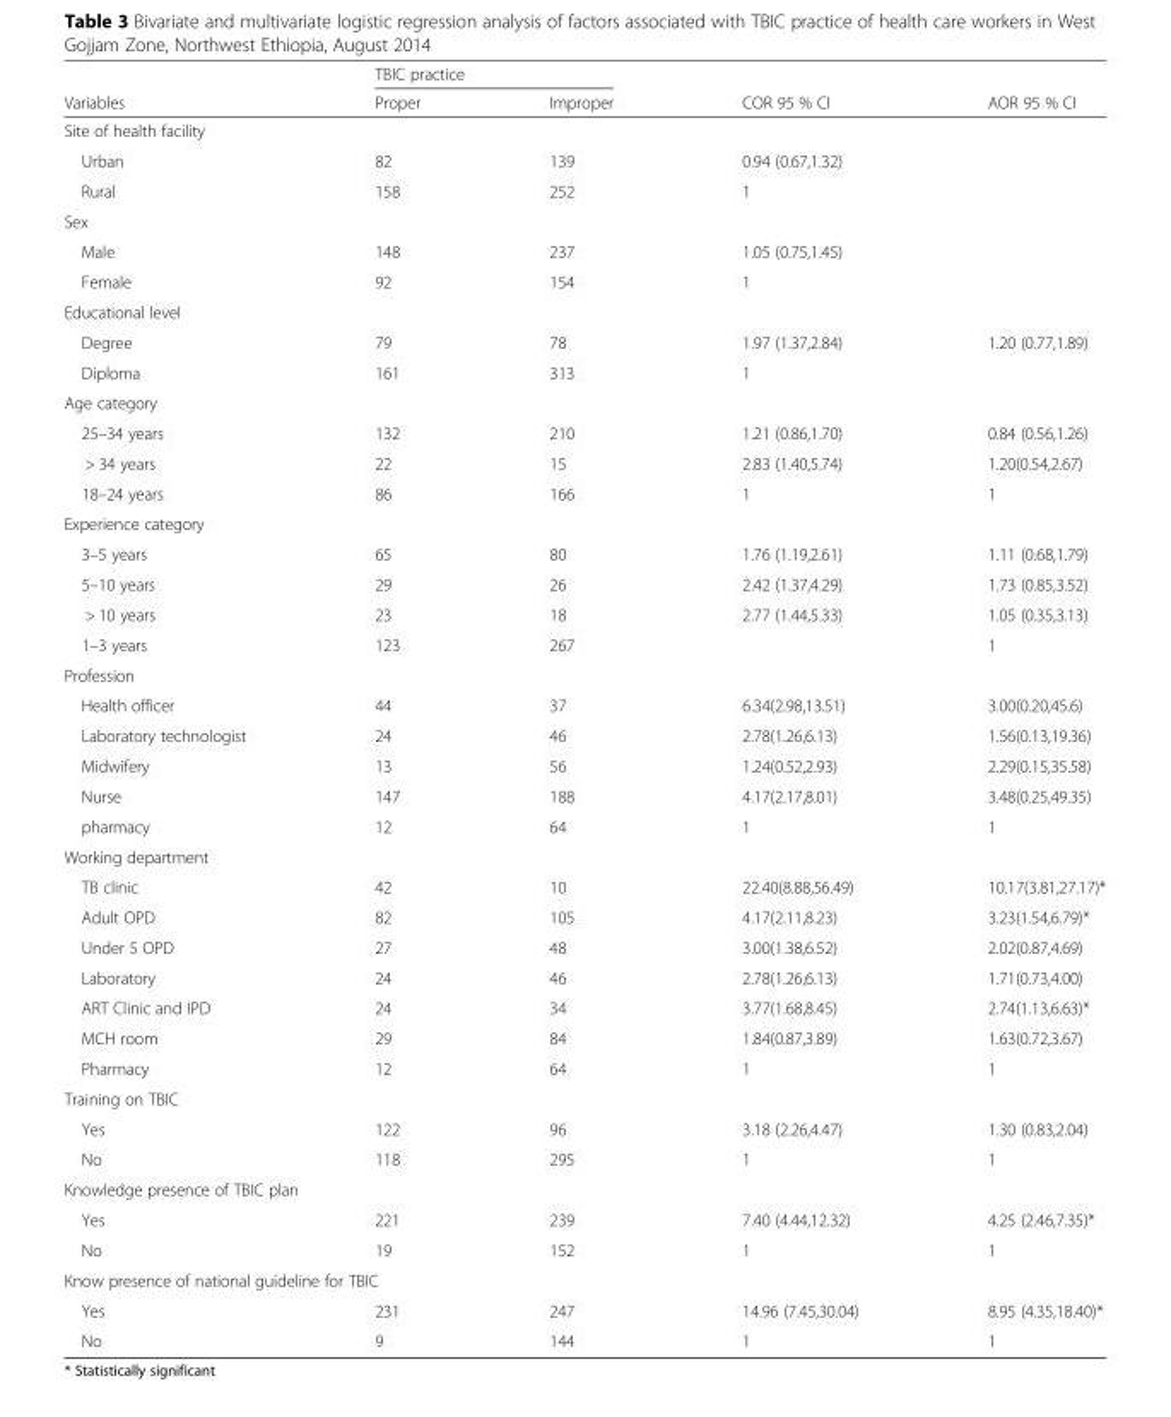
<table><thead><tr><td rowspan="2">Variables</td><td colspan="2">TBIC practice</td><td rowspan="2">COR 95 % CI</td><td rowspan="2">AOR 95 % CI</td></tr><tr><td>Proper</td><td>Improper</td></tr></thead><tbody><tr><td colspan="5">Site of health facility</td></tr><tr><td>Urban</td><td>82</td><td>139</td><td>0.94 (0.67,1.32)</td><td></td></tr><tr><td>Rural</td><td>158</td><td>252</td><td>1</td><td></td></tr><tr><td colspan="5">Sex</td></tr><tr><td>Male</td><td>148</td><td>237</td><td>1.05 (0.75,1.45)</td><td></td></tr><tr><td>Female</td><td>92</td><td>154</td><td>1</td><td></td></tr><tr><td colspan="5">Educational level</td></tr><tr><td>Degree</td><td>79</td><td>78</td><td>1.97 (1.37,2.84)</td><td>1.20 (0.77,1.89)</td></tr><tr><td>Diploma</td><td>161</td><td>313</td><td>1</td><td></td></tr><tr><td colspan="5">Age category</td></tr><tr><td>25–34 years</td><td>132</td><td>210</td><td>1.21 (0.86,1.70)</td><td>0.84 (0.56,1.26)</td></tr><tr><td>&gt; 34 years</td><td>22</td><td>15</td><td>2.83 (1.40,5.74)</td><td>1.20(0.54,2.67)</td></tr><tr><td>18–24 years</td><td>86</td><td>166</td><td>1</td><td>1</td></tr><tr><td colspan="5">Experience category</td></tr><tr><td>3–5 years</td><td>65</td><td>80</td><td>1.76 (1.19,2.61)</td><td>1.11 (0.68,1.79)</td></tr><tr><td>5–10 years</td><td>29</td><td>26</td><td>2.42 (1.37,4.29)</td><td>1.73 (0.85,3.52)</td></tr><tr><td>&gt; 10 years</td><td>23</td><td>18</td><td>2.77 (1.44,5.33)</td><td>1.05 (0.35,3.13)</td></tr><tr><td>1–3 years</td><td>123</td><td>267</td><td></td><td>1</td></tr><tr><td colspan="5">Profession</td></tr><tr><td>Health officer</td><td>44</td><td>37</td><td>6.34(2.98,13.51)</td><td>3.00(0.20,45.6)</td></tr><tr><td>Laboratory technologist</td><td>24</td><td>46</td><td>2.78(1.26,6.13)</td><td>1.56(0.13,19.36)</td></tr><tr><td>Midwifery</td><td>13</td><td>56</td><td>1.24(0.52,2.93)</td><td>2.29(0.15,35.58)</td></tr><tr><td>Nurse</td><td>147</td><td>188</td><td>4.17(2.17,8.01)</td><td>3.48(0.25,49.35)</td></tr><tr><td>pharmacy</td><td>12</td><td>64</td><td>1</td><td>1</td></tr><tr><td colspan="5">Working department</td></tr><tr><td>TB clinic</td><td>42</td><td>10</td><td>22.40(8.88,56.49)</td><td>10.17(3.81,27.17)*</td></tr><tr><td>Adult OPD</td><td>82</td><td>105</td><td>4.17(2.11,8.23)</td><td>3.23(1.54,6.79)*</td></tr><tr><td>Under 5 OPD</td><td>27</td><td>48</td><td>3.00(1.38,6.52)</td><td>2.02(0.87,4.69)</td></tr><tr><td>Laboratory</td><td>24</td><td>46</td><td>2.78(1.26,6.13)</td><td>1.71(0.73,4.00)</td></tr><tr><td>ART Clinic and IPD</td><td>24</td><td>34</td><td>3.77(1.68,8.45)</td><td>2.74(1.13,6.63)*</td></tr><tr><td>MCH room</td><td>29</td><td>84</td><td>1.84(0.87,3.89)</td><td>1.63(0.72,3.67)</td></tr><tr><td>Pharmacy</td><td>12</td><td>64</td><td>1</td><td>1</td></tr><tr><td colspan="5">Training on TBIC</td></tr><tr><td>Yes</td><td>122</td><td>96</td><td>3.18 (2.26,4.47)</td><td>1.30 (0.83,2.04)</td></tr><tr><td>No</td><td>118</td><td>295</td><td>1</td><td>1</td></tr><tr><td colspan="5">Knowledge presence of TBIC plan</td></tr><tr><td>Yes</td><td>221</td><td>239</td><td>7.40 (4.44,12.32)</td><td>4.25 (2.46,7.35)*</td></tr><tr><td>No</td><td>19</td><td>152</td><td>1</td><td>1</td></tr><tr><td colspan="5">Know presence of national guideline for TBIC</td></tr><tr><td>Yes</td><td>231</td><td>247</td><td>14.96 (7.45,30.04)</td><td>8.95 (4.35,18.40)*</td></tr><tr><td>No</td><td>9</td><td>144</td><td>1</td><td>1</td></tr></tbody></table>